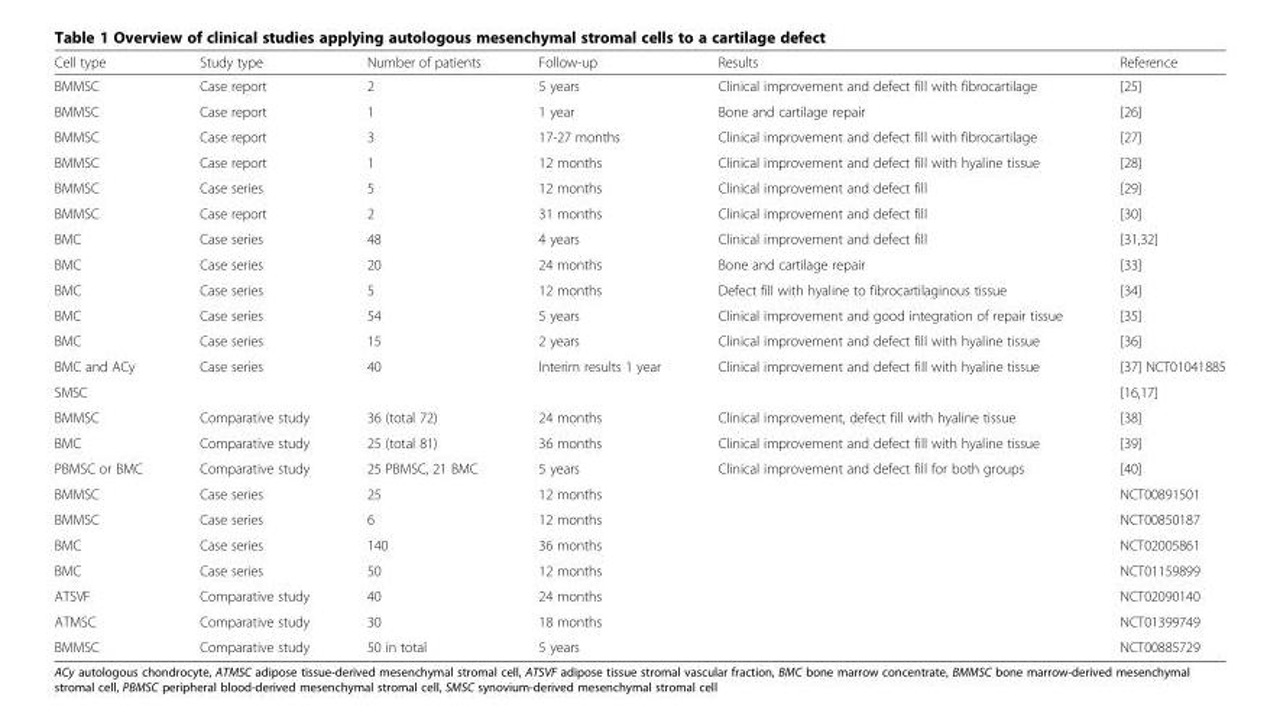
<table><thead><tr><td>Cell type</td><td>Study type</td><td>Number of patients</td><td>Follow-up</td><td>Results</td><td>Reference</td></tr></thead><tbody><tr><td>BMMSC</td><td>Case report</td><td>2</td><td>5 years</td><td>Clinical improvement and defect fill with fibrocartilage</td><td>[25]</td></tr><tr><td>BMMSC</td><td>Case report</td><td>1</td><td>1 year</td><td>Bone and cartilage repair</td><td>[26]</td></tr><tr><td>BMMSC</td><td>Case report</td><td>3</td><td>17-27 months</td><td>Clinical improvement and defect fill with fibrocartilage</td><td>[27]</td></tr><tr><td>BMMSC</td><td>Case report</td><td>1</td><td>12 months</td><td>Clinical improvement and defect fill with hyaline tissue</td><td>[28]</td></tr><tr><td>BMMSC</td><td>Case series</td><td>5</td><td>12 months</td><td>Clinical improvement and defect fill</td><td>[29]</td></tr><tr><td>BMMSC</td><td>Case report</td><td>2</td><td>31 months</td><td>Clinical improvement and defect fill</td><td>[30]</td></tr><tr><td>BMC</td><td>Case series</td><td>48</td><td>4 years</td><td>Clinical improvement and defect fill</td><td>[31,32]</td></tr><tr><td>BMC</td><td>Case series</td><td>20</td><td>24 months</td><td>Bone and cartilage repair</td><td>[33]</td></tr><tr><td>BMC</td><td>Case series</td><td>5</td><td>12 months</td><td>Defect fill with hyaline to fibrocartilaginous tissue</td><td>[34]</td></tr><tr><td>BMC</td><td>Case series</td><td>54</td><td>5 years</td><td>Clinical improvement and good integration of repair tissue</td><td>[35]</td></tr><tr><td>BMC</td><td>Case series</td><td>15</td><td>2 years</td><td>Clinical improvement and defect fill with hyaline tissue</td><td>[36]</td></tr><tr><td>BMC and ACy</td><td>Case series</td><td>40</td><td>Interim results 1 year</td><td>Clinical improvement and defect fill with hyaline tissue</td><td>[37] NCT01041885</td></tr><tr><td>SMSC</td><td colspan="3"></td><td></td><td>[16,17]</td></tr><tr><td>BMMSC</td><td>Comparative study</td><td>36 (total 72)</td><td>24 months</td><td>Clinical improvement, defect fill with hyaline tissue</td><td>[38]</td></tr><tr><td>BMC</td><td>Comparative study</td><td>25 (total 81)</td><td>36 months</td><td>Clinical improvement and defect fill with hyaline tissue</td><td>[39]</td></tr><tr><td>PBMSC or BMC</td><td>Comparative study</td><td>25 PBMSC, 21 BMC</td><td>5 years</td><td>Clinical improvement and defect fill for both groups</td><td>[40]</td></tr><tr><td>BMMSC</td><td>Case series</td><td>25</td><td>12 months</td><td></td><td>NCT00891501</td></tr><tr><td>BMMSC</td><td>Case series</td><td>6</td><td>12 months</td><td></td><td>NCT00850187</td></tr><tr><td>BMC</td><td>Case series</td><td>140</td><td>36 months</td><td></td><td>NCT02005861</td></tr><tr><td>BMC</td><td>Case series</td><td>50</td><td>12 months</td><td></td><td>NCT01159899</td></tr><tr><td>ATSVF</td><td>Comparative study</td><td>40</td><td>24 months</td><td></td><td>NCT02090140</td></tr><tr><td>ATMSC</td><td>Comparative study</td><td>30</td><td>18 months</td><td></td><td>NCT01399749</td></tr><tr><td>BMMSC</td><td>Comparative study</td><td>50 in total</td><td>5 years</td><td></td><td>NCT00885729</td></tr></tbody></table>